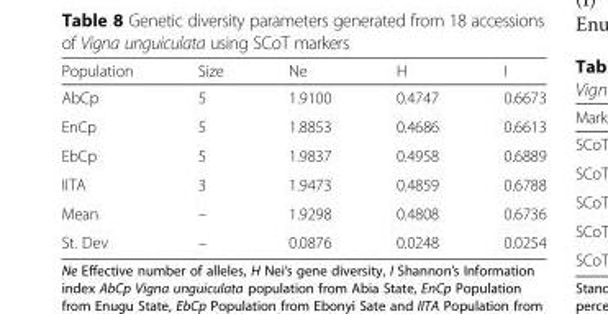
<table><thead><tr><td>Population</td><td>Size</td><td>Ne</td><td>H</td><td>I</td></tr></thead><tbody><tr><td>AbCp</td><td>5</td><td>1.9100</td><td>0.4747</td><td>0.6673</td></tr><tr><td>EnCp</td><td>5</td><td>1.8853</td><td>0.4686</td><td>0.6613</td></tr><tr><td>EbCp</td><td>5</td><td>1.9837</td><td>0.4958</td><td>0.6889</td></tr><tr><td>IITA</td><td>3</td><td>1.9473</td><td>0.4859</td><td>0.6788</td></tr><tr><td>Mean</td><td>–</td><td>1.9298</td><td>0.4808</td><td>0.6736</td></tr><tr><td>St. Dev</td><td>–</td><td>0.0876</td><td>0.0248</td><td>0.0254</td></tr></tbody></table>